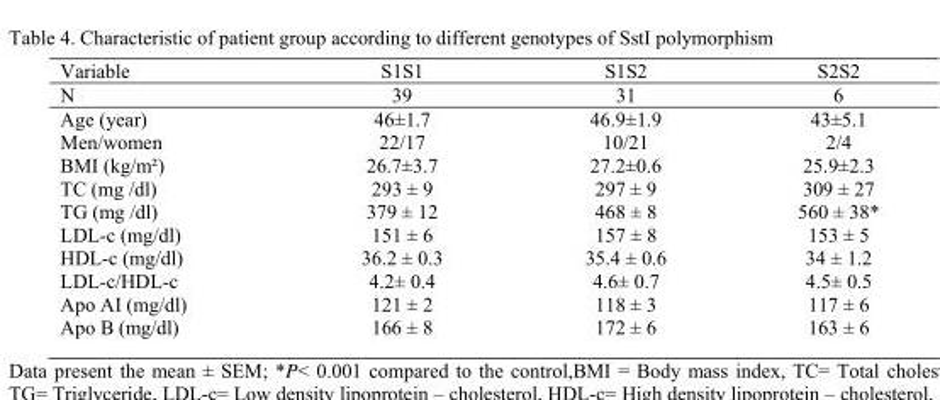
<table><thead><tr><td rowspan="2">Variable N</td><td rowspan="2">S1S1 39</td><td rowspan="2">S1S2 31</td><td rowspan="2">S2S2 6</td></tr><tr></tr></thead><tbody><tr><td>Age (year)</td><td>46±1.7</td><td>46.9±1.9</td><td>43±5.1</td></tr><tr><td>Men/women</td><td>22/17</td><td>10/21</td><td>2/4</td></tr><tr><td>BMI (kg/m²)</td><td>26.7±3.7</td><td>27.2±0.6</td><td>25.9±2.3</td></tr><tr><td>TC (mg /dl)</td><td>293 ± 9</td><td>297 ± 9</td><td>309 ± 27</td></tr><tr><td>TG (mg /dl)</td><td>379 ± 12</td><td>468 ± 8</td><td>560 ± 38*</td></tr><tr><td>LDL-c (mg/dl)</td><td>151 ± 6</td><td>157 ± 8</td><td>153 ± 5</td></tr><tr><td>HDL-c (mg/dl)</td><td>36.2 ± 0.3</td><td>35.4 ± 0.6</td><td>34 ± 1.2</td></tr><tr><td>LDL-c/HDL-c</td><td>4.2± 0.4</td><td>4.6± 0.7</td><td>4.5± 0.5</td></tr><tr><td>Apo AI (mg/dl)</td><td>121 ± 2</td><td>118 ± 3</td><td>117 ± 6</td></tr><tr><td>Apo B (mg/dl)</td><td>166 ± 8</td><td>172 ± 6</td><td>163 ± 6</td></tr></tbody></table>